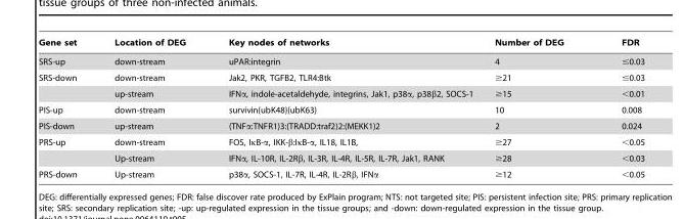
<table><thead><tr><td>Gene set</td><td>Location of DEG</td><td>Key nodes of networks</td><td>Number of DEG</td><td>FDR</td></tr></thead><tbody><tr><td>SRS-up</td><td>down-stream</td><td>uPAR:integrin</td><td>4</td><td>≤0.03</td></tr><tr><td rowspan="2">SRS-down</td><td>down-stream</td><td>Jak2, PKR, TGFB2, TLR4:Btk</td><td>≥21</td><td>≤0.03</td></tr><tr><td>up-stream</td><td>IFNα, indole-acetaldehyde, integrins, Jak1, p38α, p38β2, SOCS-1</td><td>≥15</td><td>&lt;0.01</td></tr><tr><td>PIS-up</td><td>down-stream</td><td>survivin{ubK48}{ubK63}</td><td>10</td><td>0.008</td></tr><tr><td>PIS-down</td><td>up-stream</td><td>(TNFα:TNFR1)3:(TRADD:traf2)2:(MEKK1)2</td><td>2</td><td>0.024</td></tr><tr><td rowspan="2">PRS-up</td><td>down-stream</td><td>FOS, IκB-α, IKK-β:IκB-α, IL18, IL1B,</td><td>≥27</td><td>&lt;0.05</td></tr><tr><td>Up-stream</td><td>IFNα, IL-10R, IL-2Rβ, IL-3R, IL-4R, IL-5R, IL-7R, Jak1, RANK</td><td>≥28</td><td>&lt;0.03</td></tr><tr><td>PRS-down</td><td>Up-stream</td><td>p38α, SOCS-1, IL-7R, IL-4R, IL-2Rβ, IFNα</td><td>≥12</td><td>&lt;0.05</td></tr></tbody></table>